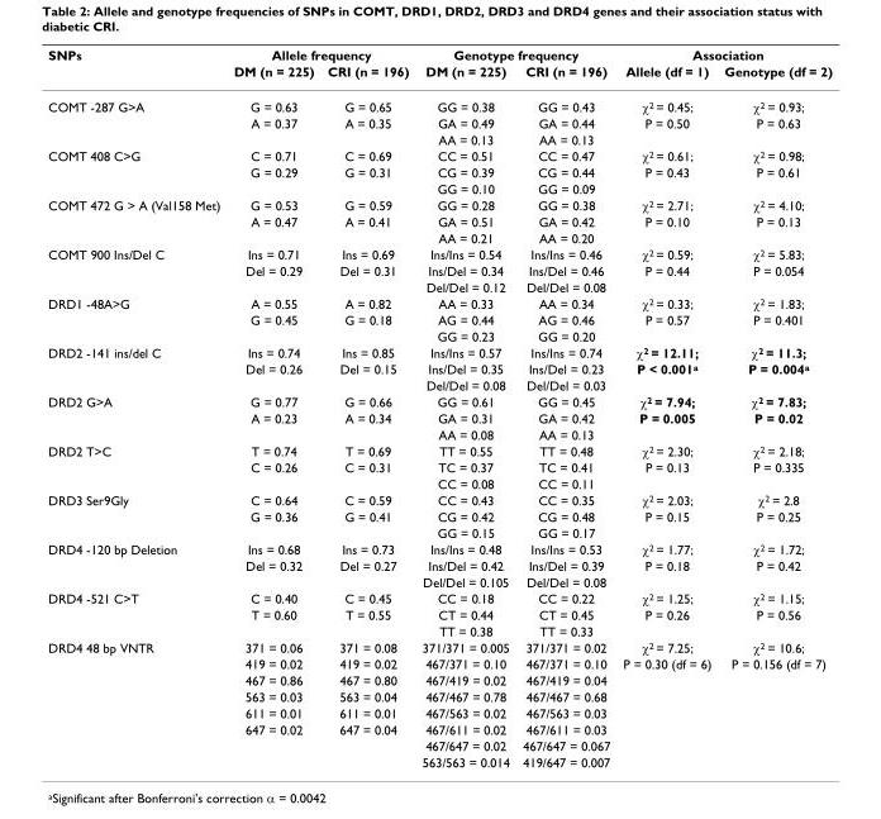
<table><thead><tr><td rowspan="2">SNPs</td><td colspan="2">Allele frequency</td><td colspan="2">Genotype frequency</td><td colspan="2">Association</td></tr><tr><td>DM (n = 225)</td><td>CRI (n = 196)</td><td>DM (n = 225)</td><td>CRI (n = 196)</td><td>Allele (df = 1)</td><td>Genotype (df = 2)</td></tr></thead><tbody><tr><td rowspan="3">COMT -287 G&gt;A</td><td>G = 0.63</td><td>G = 0.65</td><td>GG = 0.38</td><td>GG = 0.43</td><td>χ<sup>2</sup> = 0.45;</td><td>χ<sup>2</sup> = 0.93;</td></tr><tr><td>A = 0.37</td><td>A = 0.35</td><td>GA = 0.49</td><td>GA = 0.44</td><td>P = 0.50</td><td>P = 0.63</td></tr><tr><td></td><td></td><td>AA = 0.13</td><td>AA = 0.13</td><td></td><td></td></tr><tr><td rowspan="3">COMT 408 C&gt;G</td><td>C = 0.71</td><td>C = 0.69</td><td>CC = 0.51</td><td>CC = 0.47</td><td>χ<sup>2</sup> = 0.61;</td><td>χ<sup>2</sup> = 0.98;</td></tr><tr><td>G = 0.29</td><td>G = 0.31</td><td>CG = 0.39</td><td>CG = 0.44</td><td>P = 0.43</td><td>P = 0.61</td></tr><tr><td></td><td></td><td>GG = 0.10</td><td>GG = 0.09</td><td></td><td></td></tr><tr><td rowspan="3">COMT 472 G &gt; A (Val158 Met)</td><td>G = 0.53</td><td>G = 0.59</td><td>GG = 0.28</td><td>GG = 0.38</td><td>χ<sup>2</sup> = 2.71;</td><td>χ<sup>2</sup> = 4.10;</td></tr><tr><td>A = 0.47</td><td>A = 0.41</td><td>GA = 0.51</td><td>GA = 0.42</td><td>P = 0.10</td><td>P = 0.13</td></tr><tr><td></td><td></td><td>AA = 0.21</td><td>AA = 0.20</td><td></td><td></td></tr><tr><td rowspan="3">COMT 900 Ins/Del C</td><td>Ins = 0.71</td><td>Ins = 0.69</td><td>Ins/Ins = 0.54</td><td>Ins/Ins = 0.46</td><td>χ<sup>2</sup> = 0.59;</td><td>χ<sup>2</sup> = 5.83;</td></tr><tr><td>Del = 0.29</td><td>Del = 0.31</td><td>Ins/Del = 0.34</td><td>Ins/Del = 0.46</td><td>P = 0.44</td><td>P = 0.054</td></tr><tr><td></td><td></td><td>Del/Del = 0.12</td><td>Del/Del = 0.08</td><td></td><td></td></tr><tr><td rowspan="3">DRD1 -48A&gt;G</td><td>A = 0.55</td><td>A = 0.82</td><td>AA = 0.33</td><td>AA = 0.34</td><td>χ<sup>2</sup> = 0.33;</td><td>χ<sup>2</sup> = 1.83;</td></tr><tr><td>G = 0.45</td><td>G = 0.18</td><td>AG = 0.44</td><td>AG = 0.46</td><td>P = 0.57</td><td>P = 0.401</td></tr><tr><td></td><td></td><td>GG = 0.23</td><td>GG = 0.20</td><td></td><td></td></tr><tr><td rowspan="3">DRD2 -141 ins/del C</td><td>Ins = 0.74</td><td>Ins = 0.85</td><td>Ins/Ins = 0.57</td><td>Ins/Ins = 0.74</td><td>χ<sup>2</sup> = 12.11;</td><td>χ<sup>2</sup> = 11.3;</td></tr><tr><td>Del = 0.26</td><td>Del = 0.15</td><td>Ins/Del = 0.35</td><td>Ins/Del = 0.23</td><td>P &lt; 0.001<sup>a</sup></td><td>P = 0.004<sup>a</sup></td></tr><tr><td></td><td></td><td>Del/Del = 0.08</td><td>Del/Del = 0.03</td><td></td><td></td></tr><tr><td rowspan="3">DRD2 G&gt;A</td><td>G = 0.77</td><td>G = 0.66</td><td>GG = 0.61</td><td>GG = 0.45</td><td>χ<sup>2</sup> = 7.94;</td><td>χ<sup>2</sup> = 7.83;</td></tr><tr><td>A = 0.23</td><td>A = 0.34</td><td>GA = 0.31</td><td>GA = 0.42</td><td>P = 0.005</td><td>P = 0.02</td></tr><tr><td></td><td></td><td>AA = 0.08</td><td>AA = 0.13</td><td></td><td></td></tr><tr><td rowspan="3">DRD2 T&gt;C</td><td>T = 0.74</td><td>T = 0.69</td><td>TT = 0.55</td><td>TT = 0.48</td><td>χ<sup>2</sup> = 2.30;</td><td>χ<sup>2</sup> = 2.18;</td></tr><tr><td>C = 0.26</td><td>C = 0.31</td><td>TC = 0.37</td><td>TC = 0.41</td><td>P = 0.13</td><td>P = 0.335</td></tr><tr><td></td><td></td><td>CC = 0.08</td><td>CC = 0.11</td><td></td><td></td></tr><tr><td rowspan="3">DRD3 Ser9Gly</td><td>C = 0.64</td><td>C = 0.59</td><td>CC = 0.43</td><td>CC = 0.35</td><td>χ<sup>2</sup> = 2.03;</td><td>χ<sup>2</sup> = 2.8</td></tr><tr><td>G = 0.36</td><td>G = 0.41</td><td>CG = 0.42</td><td>CG = 0.48</td><td>P = 0.15</td><td>P = 0.25</td></tr><tr><td></td><td></td><td>GG = 0.15</td><td>GG = 0.17</td><td></td><td></td></tr><tr><td rowspan="3">DRD4 -120 bp Deletion</td><td>Ins = 0.68</td><td>Ins = 0.73</td><td>Ins/Ins = 0.48</td><td>Ins/Ins = 0.53</td><td>χ<sup>2</sup> = 1.77;</td><td>χ<sup>2</sup> = 1.72;</td></tr><tr><td>Del = 0.32</td><td>Del = 0.27</td><td>Ins/Del = 0.42</td><td>Ins/Del = 0.39</td><td>P = 0.18</td><td>P = 0.42</td></tr><tr><td></td><td></td><td>Del/Del = 0.105</td><td>Del/Del = 0.08</td><td></td><td></td></tr><tr><td rowspan="3">DRD4 -521 C&gt;T</td><td>C = 0.40</td><td>C = 0.45</td><td>CC = 0.18</td><td>CC = 0.22</td><td>χ<sup>2</sup> = 1.25;</td><td>χ<sup>2</sup> = 1.15;</td></tr><tr><td>T = 0.60</td><td>T = 0.55</td><td>CT = 0.44</td><td>CT = 0.45</td><td>P = 0.26</td><td>P = 0.56</td></tr><tr><td></td><td></td><td>TT = 0.38</td><td>TT = 0.33</td><td></td><td></td></tr><tr><td rowspan="8">DRD4 48 bp VNTR</td><td>371 = 0.06</td><td>371 = 0.08</td><td>371/371 = 0.005</td><td>371/371 = 0.02</td><td>χ<sup>2</sup> = 7.25;</td><td>χ<sup>2</sup> = 10.6;</td></tr><tr><td>419 = 0.02</td><td>419 = 0.02</td><td>467/371 = 0.10</td><td>467/371 = 0.10</td><td>P = 0.30 (df = 6)</td><td>P = 0.156 (df = 7)</td></tr><tr><td>467 = 0.86</td><td>467 = 0.80</td><td>467/419 = 0.02</td><td>467/419 = 0.04</td><td></td><td></td></tr><tr><td>563 = 0.03</td><td>563 = 0.04</td><td>467/467 = 0.78</td><td>467/467 = 0.68</td><td></td><td></td></tr><tr><td>611 = 0.01</td><td>611 = 0.01</td><td>467/563 = 0.02</td><td>467/563 = 0.03</td><td></td><td></td></tr><tr><td>647 = 0.02</td><td>647 = 0.04</td><td>467/611 = 0.02</td><td>467/611 = 0.03</td><td></td><td></td></tr><tr><td></td><td></td><td>467/647 = 0.02</td><td>467/647 = 0.067</td><td></td><td></td></tr><tr><td></td><td></td><td>563/563 = 0.014</td><td>419/647 = 0.007</td><td></td><td></td></tr></tbody></table>